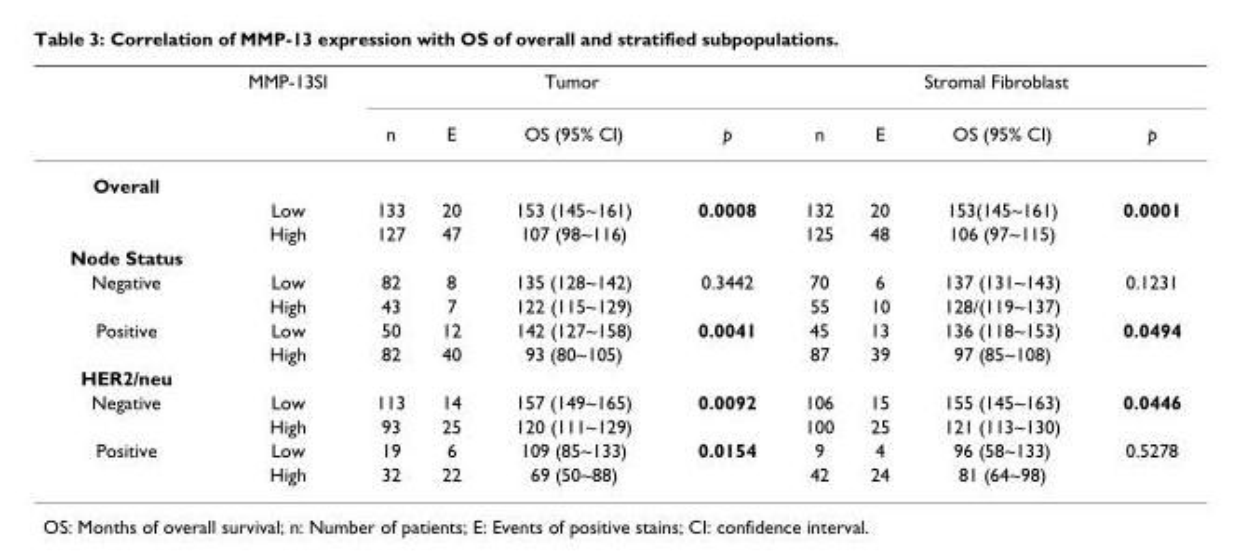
<table><thead><tr><td rowspan="2"></td><td rowspan="2">MMP-13SI</td><td colspan="4">Tumor</td><td colspan="4">Stromal Fibroblast</td></tr><tr><td>n</td><td>E</td><td>OS (95% CI)</td><td>p</td><td>n</td><td>E</td><td>OS (95% CI)</td><td>p</td></tr></thead><tbody><tr><td colspan="10">Overall</td></tr><tr><td></td><td>Low</td><td>133</td><td>20</td><td>153 (145~161)</td><td>0.0008</td><td>132</td><td>20</td><td>153(145~161)</td><td>0.0001</td></tr><tr><td></td><td>High</td><td>127</td><td>47</td><td>107 (98~116)</td><td></td><td>125</td><td>48</td><td>106 (97~115)</td><td></td></tr><tr><td colspan="10">Node Status</td></tr><tr><td rowspan="2">Negative</td><td>Low</td><td>82</td><td>8</td><td>135 (128~142)</td><td>0.3442</td><td>70</td><td>6</td><td>137 (131~143)</td><td>0.1231</td></tr><tr><td>High</td><td>43</td><td>7</td><td>122 (115~129)</td><td></td><td>55</td><td>10</td><td>128/(119~137)</td><td></td></tr><tr><td rowspan="2">Positive</td><td>Low</td><td>50</td><td>12</td><td>142 (127~158)</td><td>0.0041</td><td>45</td><td>13</td><td>136 (118~153)</td><td>0.0494</td></tr><tr><td>High</td><td>82</td><td>40</td><td>93 (80~105)</td><td></td><td>87</td><td>39</td><td>97 (85~108)</td><td></td></tr><tr><td colspan="10">HER2/neu</td></tr><tr><td rowspan="2">Negative</td><td>Low</td><td>113</td><td>14</td><td>157 (149~165)</td><td>0.0092</td><td>106</td><td>15</td><td>155 (145~163)</td><td>0.0446</td></tr><tr><td>High</td><td>93</td><td>25</td><td>120 (111~129)</td><td></td><td>100</td><td>25</td><td>121 (113~130)</td><td></td></tr><tr><td rowspan="2">Positive</td><td>Low</td><td>19</td><td>6</td><td>109 (85~133)</td><td>0.0154</td><td>9</td><td>4</td><td>96 (58~133)</td><td>0.5278</td></tr><tr><td>High</td><td>32</td><td>22</td><td>69 (50~88)</td><td></td><td>42</td><td>24</td><td>81 (64~98)</td><td></td></tr></tbody></table>